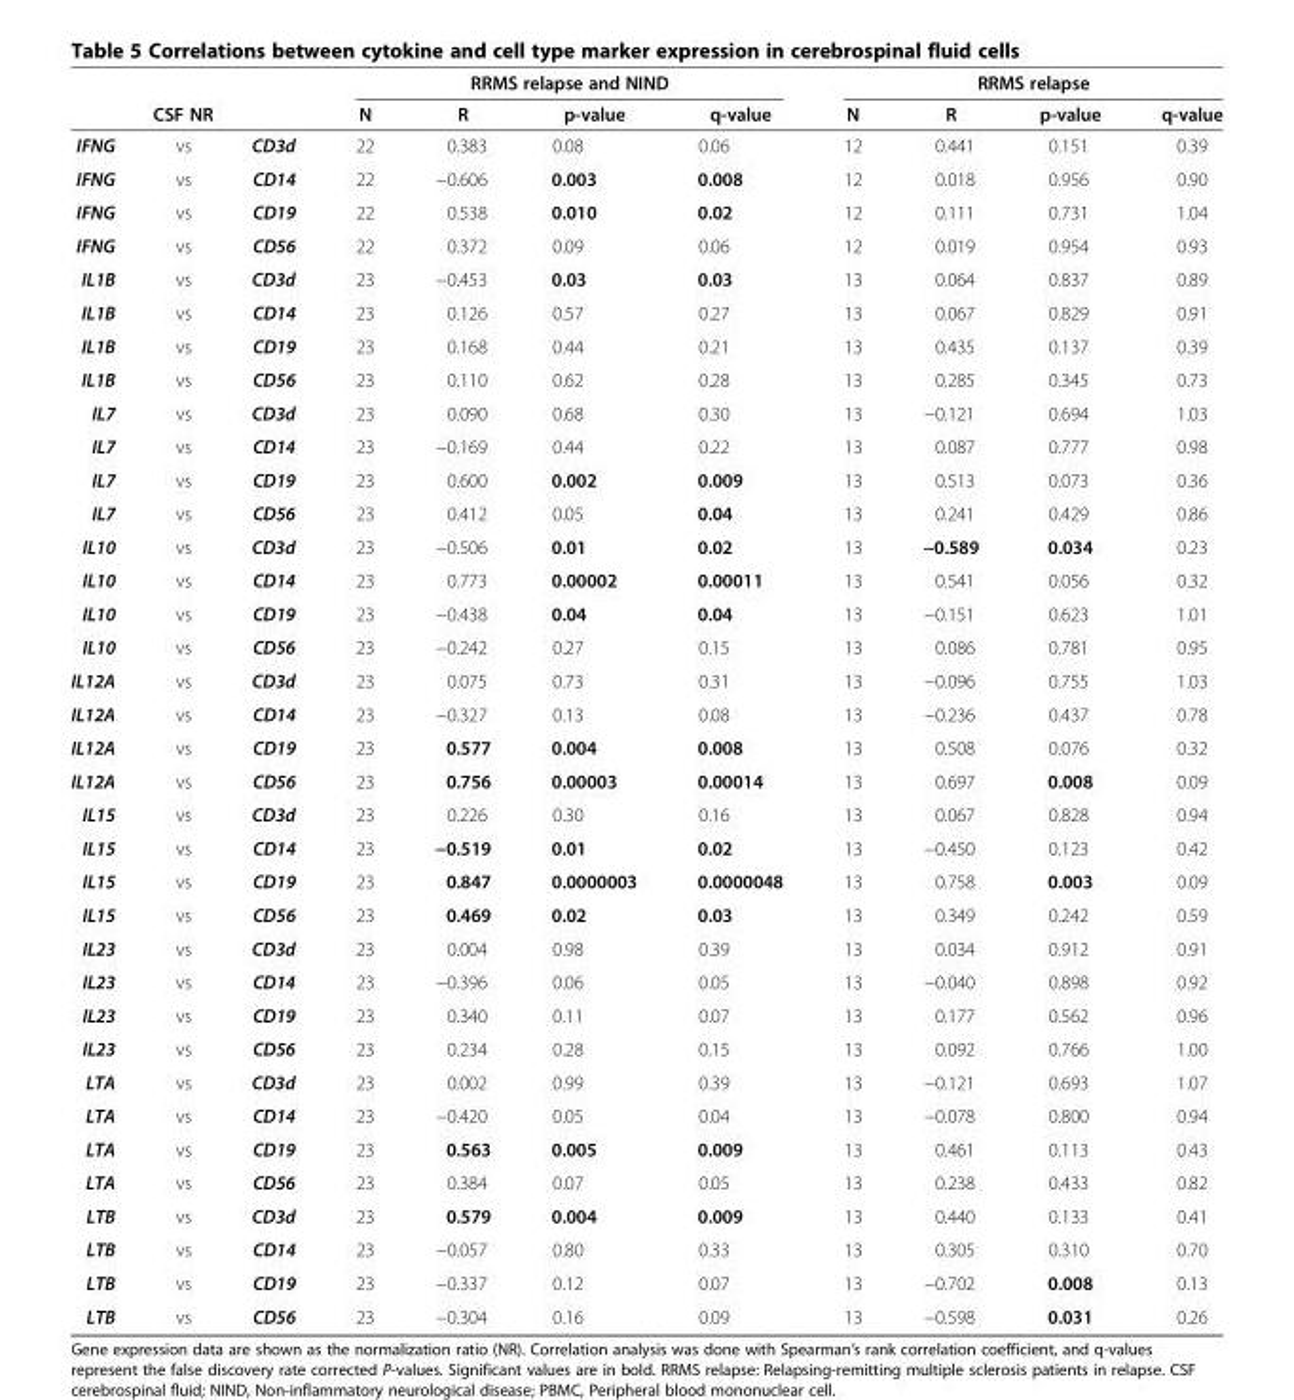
<table><thead><tr><td></td><td></td><td></td><td colspan="4">RRMS relapse and NIND</td><td colspan="4">RRMS relapse</td></tr><tr><td colspan="3">CSF NR</td><td>N</td><td>R</td><td>p-value</td><td>q-value</td><td>N</td><td>R</td><td>p-value</td><td>q-value</td></tr></thead><tbody><tr><td>IFNG</td><td>vs</td><td>CD3d</td><td>22</td><td>0.383</td><td>0.08</td><td>0.06</td><td>12</td><td>0.441</td><td>0.151</td><td>0.39</td></tr><tr><td>IFNG</td><td>vs</td><td>CD14</td><td>22</td><td>−0.606</td><td>0.003</td><td>0.008</td><td>12</td><td>0.018</td><td>0.956</td><td>0.90</td></tr><tr><td>IFNG</td><td>vs</td><td>CD19</td><td>22</td><td>0.538</td><td>0.010</td><td>0.02</td><td>12</td><td>0.111</td><td>0.731</td><td>1.04</td></tr><tr><td>IFNG</td><td>vs</td><td>CD56</td><td>22</td><td>0.372</td><td>0.09</td><td>0.06</td><td>12</td><td>0.019</td><td>0.954</td><td>0.93</td></tr><tr><td>IL1B</td><td>vs</td><td>CD3d</td><td>23</td><td>−0.453</td><td>0.03</td><td>0.03</td><td>13</td><td>0.064</td><td>0.837</td><td>0.89</td></tr><tr><td>IL1B</td><td>vs</td><td>CD14</td><td>23</td><td>0.126</td><td>0.57</td><td>0.27</td><td>13</td><td>0.067</td><td>0.829</td><td>0.91</td></tr><tr><td>IL1B</td><td>vs</td><td>CD19</td><td>23</td><td>0.168</td><td>0.44</td><td>0.21</td><td>13</td><td>0.435</td><td>0.137</td><td>0.39</td></tr><tr><td>IL1B</td><td>vs</td><td>CD56</td><td>23</td><td>0.110</td><td>0.62</td><td>0.28</td><td>13</td><td>0.285</td><td>0.345</td><td>0.73</td></tr><tr><td>IL7</td><td>vs</td><td>CD3d</td><td>23</td><td>0.090</td><td>0.68</td><td>0.30</td><td>13</td><td>−0.121</td><td>0.694</td><td>1.03</td></tr><tr><td>IL7</td><td>vs</td><td>CD14</td><td>23</td><td>−0.169</td><td>0.44</td><td>0.22</td><td>13</td><td>0.087</td><td>0.777</td><td>0.98</td></tr><tr><td>IL7</td><td>vs</td><td>CD19</td><td>23</td><td>0.600</td><td>0.002</td><td>0.009</td><td>13</td><td>0.513</td><td>0.073</td><td>0.36</td></tr><tr><td>IL7</td><td>vs</td><td>CD56</td><td>23</td><td>0.412</td><td>0.05</td><td>0.04</td><td>13</td><td>0.241</td><td>0.429</td><td>0.86</td></tr><tr><td>IL10</td><td>vs</td><td>CD3d</td><td>23</td><td>−0.506</td><td>0.01</td><td>0.02</td><td>13</td><td>−0.589</td><td>0.034</td><td>0.23</td></tr><tr><td>IL10</td><td>vs</td><td>CD14</td><td>23</td><td>0.773</td><td>0.00002</td><td>0.00011</td><td>13</td><td>0.541</td><td>0.056</td><td>0.32</td></tr><tr><td>IL10</td><td>vs</td><td>CD19</td><td>23</td><td>−0.438</td><td>0.04</td><td>0.04</td><td>13</td><td>−0.151</td><td>0.623</td><td>1.01</td></tr><tr><td>IL10</td><td>vs</td><td>CD56</td><td>23</td><td>−0.242</td><td>0.27</td><td>0.15</td><td>13</td><td>0.086</td><td>0.781</td><td>0.95</td></tr><tr><td>IL12A</td><td>vs</td><td>CD3d</td><td>23</td><td>0.075</td><td>0.73</td><td>0.31</td><td>13</td><td>−0.096</td><td>0.755</td><td>1.03</td></tr><tr><td>IL12A</td><td>vs</td><td>CD14</td><td>23</td><td>−0.327</td><td>0.13</td><td>0.08</td><td>13</td><td>−0.236</td><td>0.437</td><td>0.78</td></tr><tr><td>IL12A</td><td>vs</td><td>CD19</td><td>23</td><td>0.577</td><td>0.004</td><td>0.008</td><td>13</td><td>0.508</td><td>0.076</td><td>0.32</td></tr><tr><td>IL12A</td><td>vs</td><td>CD56</td><td>23</td><td>0.756</td><td>0.00003</td><td>0.00014</td><td>13</td><td>0.697</td><td>0.008</td><td>0.09</td></tr><tr><td>IL15</td><td>vs</td><td>CD3d</td><td>23</td><td>0.226</td><td>0.30</td><td>0.16</td><td>13</td><td>0.067</td><td>0.828</td><td>0.94</td></tr><tr><td>IL15</td><td>vs</td><td>CD14</td><td>23</td><td>−0.519</td><td>0.01</td><td>0.02</td><td>13</td><td>−0.450</td><td>0.123</td><td>0.42</td></tr><tr><td>IL15</td><td>vs</td><td>CD19</td><td>23</td><td>0.847</td><td>0.0000003</td><td>0.0000048</td><td>13</td><td>0.758</td><td>0.003</td><td>0.09</td></tr><tr><td>IL15</td><td>vs</td><td>CD56</td><td>23</td><td>0.469</td><td>0.02</td><td>0.03</td><td>13</td><td>0.349</td><td>0.242</td><td>0.59</td></tr><tr><td>IL23</td><td>vs</td><td>CD3d</td><td>23</td><td>0.004</td><td>0.98</td><td>0.39</td><td>13</td><td>0.034</td><td>0.912</td><td>0.91</td></tr><tr><td>IL23</td><td>vs</td><td>CD14</td><td>23</td><td>−0.396</td><td>0.06</td><td>0.05</td><td>13</td><td>−0.040</td><td>0.898</td><td>0.92</td></tr><tr><td>IL23</td><td>vs</td><td>CD19</td><td>23</td><td>0.340</td><td>0.11</td><td>0.07</td><td>13</td><td>0.177</td><td>0.562</td><td>0.96</td></tr><tr><td>IL23</td><td>vs</td><td>CD56</td><td>23</td><td>0.234</td><td>0.28</td><td>0.15</td><td>13</td><td>0.092</td><td>0.766</td><td>1.00</td></tr><tr><td>LTA</td><td>vs</td><td>CD3d</td><td>23</td><td>0.002</td><td>0.99</td><td>0.39</td><td>13</td><td>−0.121</td><td>0.693</td><td>1.07</td></tr><tr><td>LTA</td><td>vs</td><td>CD14</td><td>23</td><td>−0.420</td><td>0.05</td><td>0.04</td><td>13</td><td>−0.078</td><td>0.800</td><td>0.94</td></tr><tr><td>LTA</td><td>vs</td><td>CD19</td><td>23</td><td>0.563</td><td>0.005</td><td>0.009</td><td>13</td><td>0.461</td><td>0.113</td><td>0.43</td></tr><tr><td>LTA</td><td>vs</td><td>CD56</td><td>23</td><td>0.384</td><td>0.07</td><td>0.05</td><td>13</td><td>0.238</td><td>0.433</td><td>0.82</td></tr><tr><td>LTB</td><td>vs</td><td>CD3d</td><td>23</td><td>0.579</td><td>0.004</td><td>0.009</td><td>13</td><td>0.440</td><td>0.133</td><td>0.41</td></tr><tr><td>LTB</td><td>vs</td><td>CD14</td><td>23</td><td>−0.057</td><td>0.80</td><td>0.33</td><td>13</td><td>0.305</td><td>0.310</td><td>0.70</td></tr><tr><td>LTB</td><td>vs</td><td>CD19</td><td>23</td><td>−0.337</td><td>0.12</td><td>0.07</td><td>13</td><td>−0.702</td><td>0.008</td><td>0.13</td></tr><tr><td>LTB</td><td>vs</td><td>CD56</td><td>23</td><td>−0.304</td><td>0.16</td><td>0.09</td><td>13</td><td>−0.598</td><td>0.031</td><td>0.26</td></tr></tbody></table>